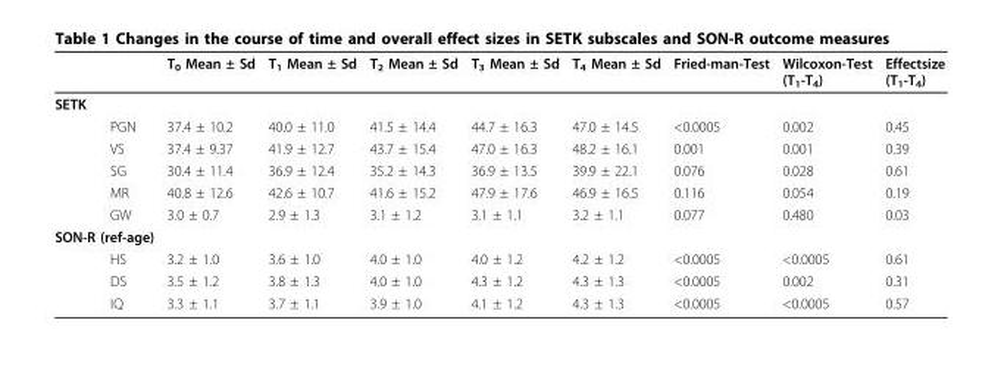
<table><thead><tr><td></td><td>T<sub>0</sub> Mean ± Sd</td><td>T<sub>1</sub> Mean ± Sd</td><td>T<sub>2</sub> Mean ± Sd</td><td>T<sub>3</sub> Mean ± Sd</td><td>T<sub>4</sub> Mean ± Sd</td><td>Fried-man-Test</td><td>Wilcoxon-Test (T<sub>1</sub>-T<sub>4</sub>)</td><td>Effectsize (T<sub>1</sub>-T<sub>4</sub>)</td></tr></thead><tbody><tr><td colspan="9">SETK</td></tr><tr><td>PGN</td><td>37.4 ± 10.2</td><td>40.0 ± 11.0</td><td>41.5 ± 14.4</td><td>44.7 ± 16.3</td><td>47.0 ± 14.5</td><td>&lt;0.0005</td><td>0.002</td><td>0.45</td></tr><tr><td>VS</td><td>37.4 ± 9.37</td><td>41.9 ± 12.7</td><td>43.7 ± 15.4</td><td>47.0 ± 16.3</td><td>48.2 ± 16.1</td><td>0.001</td><td>0.001</td><td>0.39</td></tr><tr><td>SG</td><td>30.4 ± 11.4</td><td>36.9 ± 12.4</td><td>35.2 ± 14.3</td><td>36.9 ± 13.5</td><td>39.9 ± 22.1</td><td>0.076</td><td>0.028</td><td>0.61</td></tr><tr><td>MR</td><td>40.8 ± 12.6</td><td>42.6 ± 10.7</td><td>41.6 ± 15.2</td><td>47.9 ± 17.6</td><td>46.9 ± 16.5</td><td>0.116</td><td>0.054</td><td>0.19</td></tr><tr><td>GW</td><td>3.0 ± 0.7</td><td>2.9 ± 1.3</td><td>3.1 ± 1.2</td><td>3.1 ± 1.1</td><td>3.2 ± 1.1</td><td>0.077</td><td>0.480</td><td>0.03</td></tr><tr><td colspan="9">SON-R (ref-age)</td></tr><tr><td>HS</td><td>3.2 ± 1.0</td><td>3.6 ± 1.0</td><td>4.0 ± 1.0</td><td>4.0 ± 1.2</td><td>4.2 ± 1.2</td><td>&lt;0.0005</td><td>&lt;0.0005</td><td>0.61</td></tr><tr><td>DS</td><td>3.5 ± 1.2</td><td>3.8 ± 1.3</td><td>4.0 ± 1.0</td><td>4.3 ± 1.2</td><td>4.3 ± 1.3</td><td>&lt;0.0005</td><td>0.002</td><td>0.31</td></tr><tr><td>IQ</td><td>3.3 ± 1.1</td><td>3.7 ± 1.1</td><td>3.9 ± 1.0</td><td>4.1 ± 1.2</td><td>4.3 ± 1.3</td><td>&lt;0.0005</td><td>&lt;0.0005</td><td>0.57</td></tr></tbody></table>